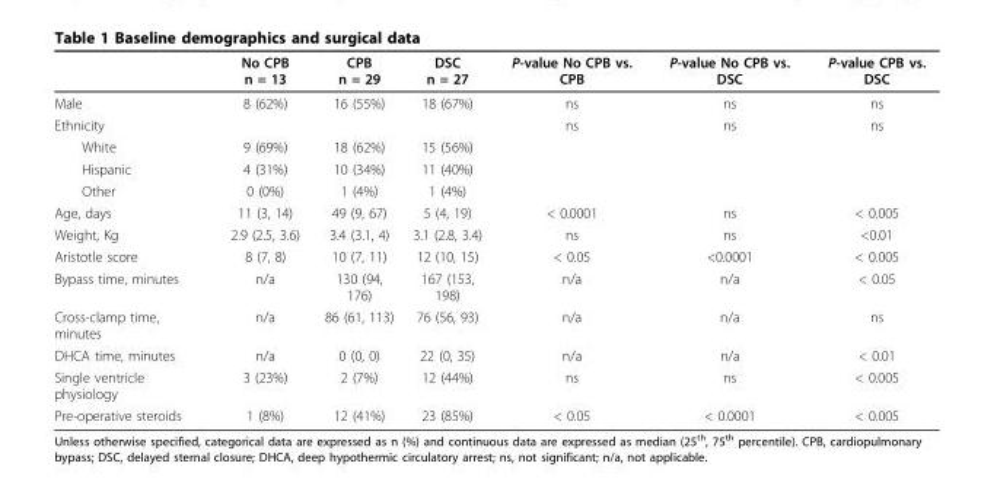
<table><thead><tr><td></td><td>No CPB n = 13</td><td>CPB n = 29</td><td>DSC n = 27</td><td>P-value No CPB vs. CPB</td><td>P-value No CPB vs. DSC</td><td>P-value CPB vs. DSC</td></tr></thead><tbody><tr><td>Male</td><td>8 (62%)</td><td>16 (55%)</td><td>18 (67%)</td><td>ns</td><td>ns</td><td>ns</td></tr><tr><td>Ethnicity</td><td></td><td></td><td></td><td>ns</td><td>ns</td><td>ns</td></tr><tr><td>White</td><td>9 (69%)</td><td>18 (62%)</td><td>15 (56%)</td><td></td><td></td><td></td></tr><tr><td>Hispanic</td><td>4 (31%)</td><td>10 (34%)</td><td>11 (40%)</td><td></td><td></td><td></td></tr><tr><td>Other</td><td>0 (0%)</td><td>1 (4%)</td><td>1 (4%)</td><td></td><td></td><td></td></tr><tr><td>Age, days</td><td>11 (3, 14)</td><td>49 (9, 67)</td><td>5 (4, 19)</td><td>&lt; 0.0001</td><td>ns</td><td>&lt; 0.005</td></tr><tr><td>Weight, Kg</td><td>2.9 (2.5, 3.6)</td><td>3.4 (3.1, 4)</td><td>3.1 (2.8, 3.4)</td><td>ns</td><td>ns</td><td>&lt;0.01</td></tr><tr><td>Aristotle score</td><td>8 (7, 8)</td><td>10 (7, 11)</td><td>12 (10, 15)</td><td>&lt; 0.05</td><td>&lt;0.0001</td><td>&lt; 0.005</td></tr><tr><td>Bypass time, minutes</td><td>n/a</td><td>130 (94, 176)</td><td>167 (153, 198)</td><td>n/a</td><td>n/a</td><td>&lt; 0.05</td></tr><tr><td>Cross-clamp time, minutes</td><td>n/a</td><td>86 (61, 113)</td><td>76 (56, 93)</td><td>n/a</td><td>n/a</td><td>ns</td></tr><tr><td>DHCA time, minutes</td><td>n/a</td><td>0 (0, 0)</td><td>22 (0, 35)</td><td>n/a</td><td>n/a</td><td>&lt; 0.01</td></tr><tr><td>Single ventricle physiology</td><td>3 (23%)</td><td>2 (7%)</td><td>12 (44%)</td><td>ns</td><td>ns</td><td>&lt; 0.005</td></tr><tr><td>Pre-operative steroids</td><td>1 (8%)</td><td>12 (41%)</td><td>23 (85%)</td><td>&lt; 0.05</td><td>&lt; 0.0001</td><td>&lt; 0.005</td></tr></tbody></table>